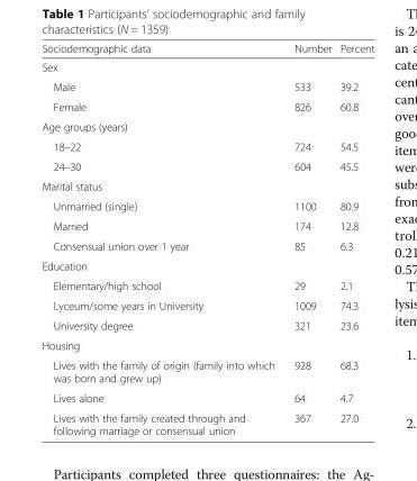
<table><thead><tr><td>Sociodemographic data</td><td>Number</td><td>Percent</td></tr></thead><tbody><tr><td colspan="3">Sex</td></tr><tr><td>Male</td><td>533</td><td>39.2</td></tr><tr><td>Female</td><td>826</td><td>60.8</td></tr><tr><td colspan="3">Age groups (years)</td></tr><tr><td>18–22</td><td>724</td><td>54.5</td></tr><tr><td>24–30</td><td>604</td><td>45.5</td></tr><tr><td colspan="3">Marital status</td></tr><tr><td>Unmarried (single)</td><td>1100</td><td>80.9</td></tr><tr><td>Married</td><td>174</td><td>12.8</td></tr><tr><td>Consensual union over 1 year</td><td>85</td><td>6.3</td></tr><tr><td colspan="3">Education</td></tr><tr><td>Elementary/high school</td><td>29</td><td>2.1</td></tr><tr><td>Lyceum/some years in University</td><td>1009</td><td>74.3</td></tr><tr><td>University degree</td><td>321</td><td>23.6</td></tr><tr><td colspan="3">Housing</td></tr><tr><td>Lives with the family of origin (family into which was born and grew up)</td><td>928</td><td>68.3</td></tr><tr><td>Lives alone</td><td>64</td><td>4.7</td></tr><tr><td>Lives with the family created through and following marriage or consensual union</td><td>367</td><td>27.0</td></tr></tbody></table>